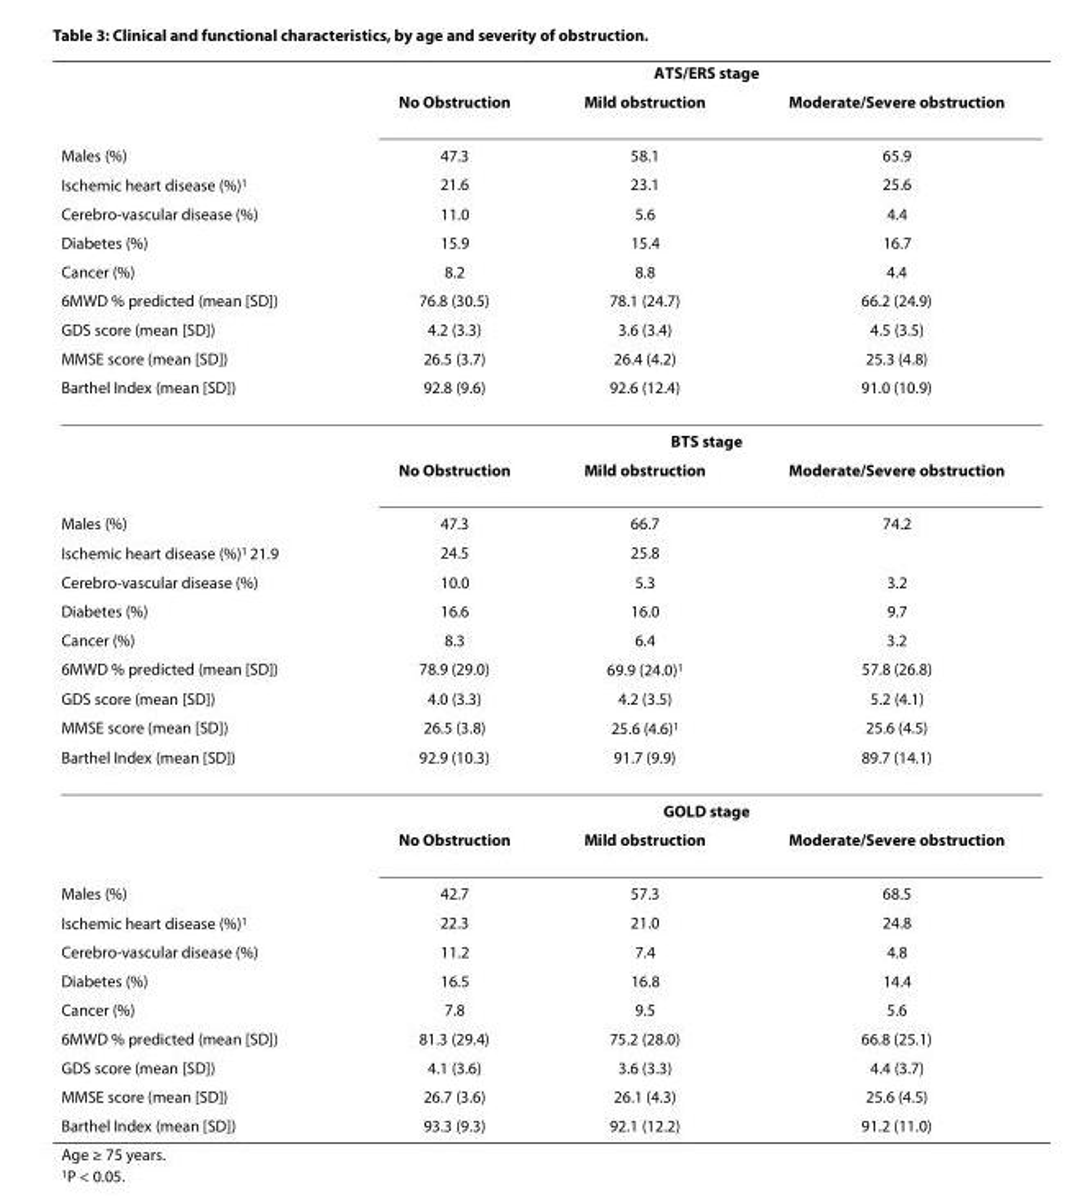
<table><thead><tr><td rowspan="11">Males (%) Ischemic heart disease (%)1 Cerebro-vascular disease (%) Diabetes (%) Cancer (%) 6MWD % predicted (mean [SD]) GDS score (mean [SD]) MMSE score (mean [SD]) Barthel Index (mean [SD])</td><td colspan="3">ATS/ERS stage</td></tr><tr><td rowspan="10">No Obstruction 47.3 21.6 11.0 15.9 8.2 76.8 (30.5) 4.2 (3.3) 26.5 (3.7) 92.8 (9.6)</td><td rowspan="10">Mild obstruction 58.1 23.1 5.6 15.4 8.8 78.1 (24.7) 3.6 (3.4) 26.4 (4.2) 92.6 (12.4)</td><td rowspan="10">Moderate/Severe obstruction 65.9 25.6 4.4 16.7 4.4 66.2 (24.9) 4.5 (3.5) 25.3 (4.8) 91.0 (10.9)</td></tr><tr></tr><tr></tr><tr></tr><tr></tr><tr></tr><tr></tr><tr></tr><tr></tr><tr></tr></thead><tbody><tr><td></td><td colspan="3">BTS stage</td></tr><tr><td></td><td>No Obstruction</td><td>Mild obstruction</td><td>Moderate/Severe obstruction</td></tr><tr><td>Males (%)</td><td>47.3</td><td>66.7</td><td>74.2</td></tr><tr><td>Ischemic heart disease (%)<sup>1</sup> 21.9</td><td>24.5</td><td>25.8</td><td></td></tr><tr><td>Cerebro-vascular disease (%)</td><td>10.0</td><td>5.3</td><td>3.2</td></tr><tr><td>Diabetes (%)</td><td>16.6</td><td>16.0</td><td>9.7</td></tr><tr><td>Cancer (%)</td><td>8.3</td><td>6.4</td><td>3.2</td></tr><tr><td>6MWD % predicted (mean [SD])</td><td>78.9 (29.0)</td><td>69.9 (24.0)<sup>1</sup></td><td>57.8 (26.8)</td></tr><tr><td>GDS score (mean [SD])</td><td>4.0 (3.3)</td><td>4.2 (3.5)</td><td>5.2 (4.1)</td></tr><tr><td>MMSE score (mean [SD])</td><td>26.5 (3.8)</td><td>25.6 (4.6)<sup>1</sup></td><td>25.6 (4.5)</td></tr><tr><td rowspan="3">Barthel Index (mean [SD])</td><td>92.9 (10.3)</td><td>91.7 (9.9)</td><td>89.7 (14.1)</td></tr><tr><td colspan="3">GOLD stage</td></tr><tr><td>No Obstruction</td><td>Mild obstruction</td><td>Moderate/Severe obstruction</td></tr><tr><td>Males (%)</td><td>42.7</td><td>57.3</td><td>68.5</td></tr><tr><td>Ischemic heart disease (%)<sup>1</sup></td><td>22.3</td><td>21.0</td><td>24.8</td></tr><tr><td>Cerebro-vascular disease (%)</td><td>11.2</td><td>7.4</td><td>4.8</td></tr><tr><td>Diabetes (%)</td><td>16.5</td><td>16.8</td><td>14.4</td></tr><tr><td>Cancer (%)</td><td>7.8</td><td>9.5</td><td>5.6</td></tr><tr><td>6MWD % predicted (mean [SD])</td><td>81.3 (29.4)</td><td>75.2 (28.0)</td><td>66.8 (25.1)</td></tr><tr><td>GDS score (mean [SD])</td><td>4.1 (3.6)</td><td>3.6 (3.3)</td><td>4.4 (3.7)</td></tr><tr><td>MMSE score (mean [SD])</td><td>26.7 (3.6)</td><td>26.1 (4.3)</td><td>25.6 (4.5)</td></tr><tr><td>Barthel Index (mean [SD])</td><td>93.3 (9.3)</td><td>92.1 (12.2)</td><td>91.2 (11.0)</td></tr></tbody></table>